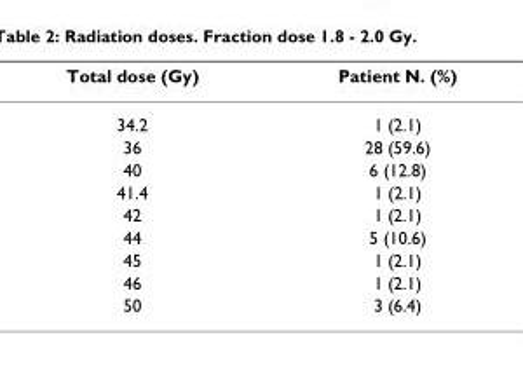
<table><thead><tr><td>Total dose (Gy)</td><td>Patient N. (%)</td></tr></thead><tbody><tr><td>34.2</td><td>1 (2.1)</td></tr><tr><td>36</td><td>28 (59.6)</td></tr><tr><td>40</td><td>6 (12.8)</td></tr><tr><td>41.4</td><td>1 (2.1)</td></tr><tr><td>42</td><td>1 (2.1)</td></tr><tr><td>44</td><td>5 (10.6)</td></tr><tr><td>45</td><td>1 (2.1)</td></tr><tr><td>46</td><td>1 (2.1)</td></tr><tr><td>50</td><td>3 (6.4)</td></tr></tbody></table>